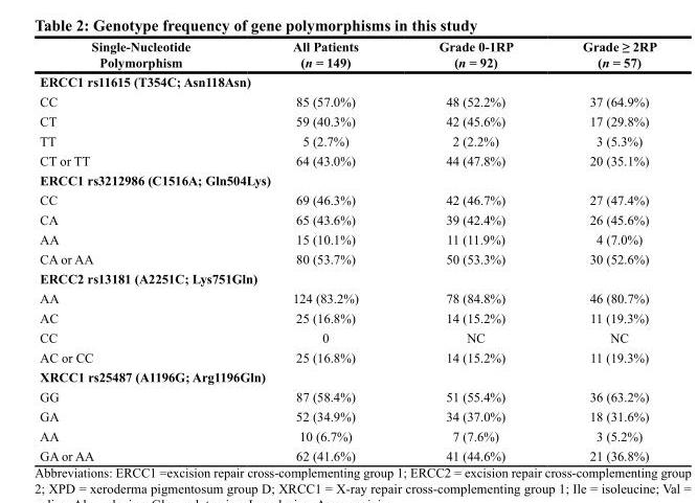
<table><thead><tr><td>Single-Nucleotide Polymorphism</td><td>All Patients (n = 149)</td><td>Grade 0-1RP (n = 92)</td><td>Grade ≥ 2RP (n = 57)</td></tr></thead><tbody><tr><td colspan="4">ERCC1 rs11615 (T354C; Asn118Asn)</td></tr><tr><td>CC</td><td>85 (57.0%)</td><td>48 (52.2%)</td><td>37 (64.9%)</td></tr><tr><td>CT</td><td>59 (40.3%)</td><td>42 (45.6%)</td><td>17 (29.8%)</td></tr><tr><td>TT</td><td>5 (2.7%)</td><td>2 (2.2%)</td><td>3 (5.3%)</td></tr><tr><td>CT or TT</td><td>64 (43.0%)</td><td>44 (47.8%)</td><td>20 (35.1%)</td></tr><tr><td colspan="4">ERCC1 rs3212986 (C1516A; Gln504Lys)</td></tr><tr><td>CC</td><td>69 (46.3%)</td><td>42 (46.7%)</td><td>27 (47.4%)</td></tr><tr><td>CA</td><td>65 (43.6%)</td><td>39 (42.4%)</td><td>26 (45.6%)</td></tr><tr><td>AA</td><td>15 (10.1%)</td><td>11 (11.9%)</td><td>4 (7.0%)</td></tr><tr><td>CA or AA</td><td>80 (53.7%)</td><td>50 (53.3%)</td><td>30 (52.6%)</td></tr><tr><td colspan="4">ERCC2 rs13181 (A2251C; Lys751Gln)</td></tr><tr><td>AA</td><td>124 (83.2%)</td><td>78 (84.8%)</td><td>46 (80.7%)</td></tr><tr><td>AC</td><td>25 (16.8%)</td><td>14 (15.2%)</td><td>11 (19.3%)</td></tr><tr><td>CC</td><td>0</td><td>NC</td><td>NC</td></tr><tr><td>AC or CC</td><td>25 (16.8%)</td><td>14 (15.2%)</td><td>11 (19.3%)</td></tr><tr><td colspan="4">XRCC1 rs25487 (A1196G; Arg1196Gln)</td></tr><tr><td>GG</td><td>87 (58.4%)</td><td>51 (55.4%)</td><td>36 (63.2%)</td></tr><tr><td>GA</td><td>52 (34.9%)</td><td>34 (37.0%)</td><td>18 (31.6%)</td></tr><tr><td>AA</td><td>10 (6.7%)</td><td>7 (7.6%)</td><td>3 (5.2%)</td></tr><tr><td>GA or AA</td><td>62 (41.6%)</td><td>41 (44.6%)</td><td>21 (36.8%)</td></tr></tbody></table>